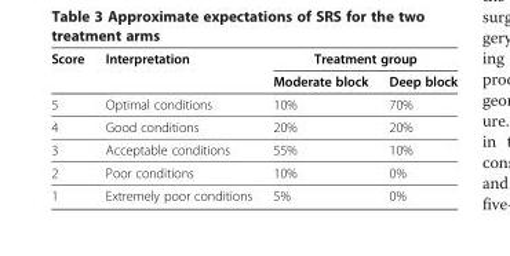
<table><thead><tr><td rowspan="2">Score</td><td rowspan="2">Interpretation</td><td colspan="2">Treatment group</td></tr><tr><td>Moderate block</td><td>Deep block</td></tr></thead><tbody><tr><td>5</td><td>Optimal conditions</td><td>10%</td><td>70%</td></tr><tr><td>4</td><td>Good conditions</td><td>20%</td><td>20%</td></tr><tr><td>3</td><td>Acceptable conditions</td><td>55%</td><td>10%</td></tr><tr><td>2</td><td>Poor conditions</td><td>10%</td><td>0%</td></tr><tr><td>1</td><td>Extremely poor conditions</td><td>5%</td><td>0%</td></tr></tbody></table>